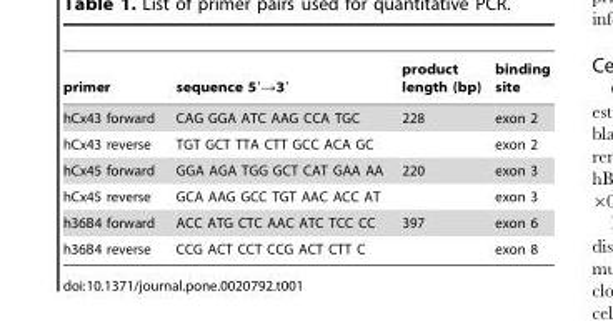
<table><thead><tr><td>primer</td><td>sequence 5′→3′</td><td>product length (bp)</td><td>binding site</td></tr></thead><tbody><tr><td>hCx43 forward</td><td>CAG GGA ATC AAG CCA TGC</td><td>228</td><td>exon 2</td></tr><tr><td>hCx43 reverse</td><td>TGT GCT TTA CTT GCC ACA GC</td><td></td><td>exon 2</td></tr><tr><td>hCx45 forward</td><td>GGA AGA TGG GCT CAT GAA AA</td><td>220</td><td>exon 3</td></tr><tr><td>hCx45 reverse</td><td>GCA AAG GCC TGT AAC ACC AT</td><td></td><td>exon 3</td></tr><tr><td>h36B4 forward</td><td>ACC ATG CTC AAC ATC TCC CC</td><td>397</td><td>exon 6</td></tr><tr><td>h36B4 reverse</td><td>CCG ACT CCT CCG ACT CTT C</td><td></td><td>exon 8</td></tr></tbody></table>